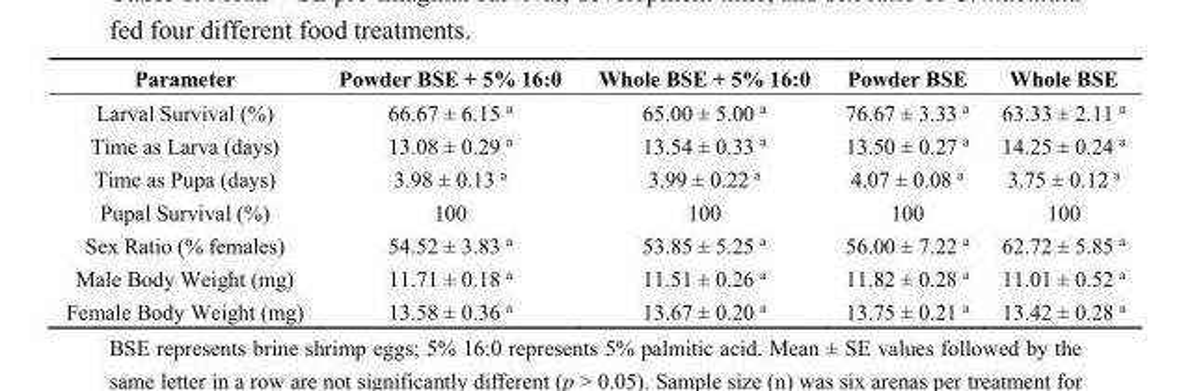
<table><thead><tr><td>Parameter</td><td>Powder BSE + 5% 16:0</td><td>Whole BSE + 5% 16:0</td><td>Powder BSE</td><td>Whole BSE</td></tr></thead><tbody><tr><td>Larval Survival (%)</td><td>66.67 ± 6.15 <sup>a</sup></td><td>65.00 ± 5.00 <sup>a</sup></td><td>76.67 ± 3.33 <sup>a</sup></td><td>63.33 ± 2.11 <sup>a</sup></td></tr><tr><td>Time as Larva (days)</td><td>13.08 ± 0.29 <sup>a</sup></td><td>13.54 ± 0.33 <sup>a</sup></td><td>13.50 ± 0.27 <sup>a</sup></td><td>14.25 ± 0.24 <sup>a</sup></td></tr><tr><td>Time as Pupa (days)</td><td>3.98 ± 0.13 <sup>a</sup></td><td>3.99 ± 0.22 <sup>a</sup></td><td>4.07 ± 0.08 <sup>a</sup></td><td>3.75 ± 0.12 <sup>a</sup></td></tr><tr><td>Pupal Survival (%)</td><td>100</td><td>100</td><td>100</td><td>100</td></tr><tr><td>Sex Ratio (% females)</td><td>54.52 ± 3.83 <sup>a</sup></td><td>53.85 ± 5.25 <sup>a</sup></td><td>56.00 ± 7.22 <sup>a</sup></td><td>62.72 ± 5.85 <sup>a</sup></td></tr><tr><td>Male Body Weight (mg)</td><td>11.71 ± 0.18 <sup>a</sup></td><td>11.51 ± 0.26 <sup>a</sup></td><td>11.82 ± 0.28 <sup>a</sup></td><td>11.01 ± 0.52 <sup>a</sup></td></tr><tr><td>Female Body Weight (mg)</td><td>13.58 ± 0.36 <sup>a</sup></td><td>13.67 ± 0.20 <sup>a</sup></td><td>13.75 ± 0.21 <sup>a</sup></td><td>13.42 ± 0.28 <sup>a</sup></td></tr></tbody></table>